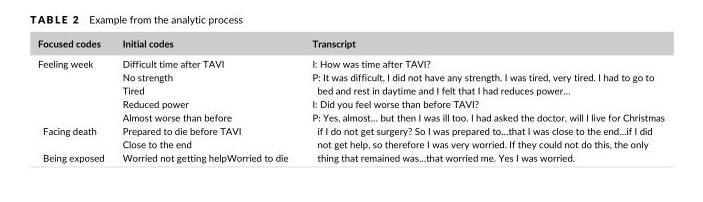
<table><thead><tr><td>Focused codes</td><td>Initial codes</td><td>Transcript</td></tr></thead><tbody><tr><td>Feeling week Facing death Being exposed</td><td>Difficult time after TAVI No strength Tired Reduced power Almost worse than before Prepared to die before TAVI Close to the end Worried not getting helpWorried to die</td><td>I: How was time after TAVI? P: It was difficult, I did not have any strength. I was tired, very tired. I had to go to bed and rest in daytime and I felt that I had reduces power… I: Did you feel worse than before TAVI? P: Yes, almost… but then I was ill too. I had asked the doctor, will I live for Christmas if I do not get surgery? So I was prepared to…that I was close to the end…if I did not get help, so therefore I was very worried. If they could not do this, the only thing that remained was…that worried me. Yes I was worried.</td></tr></tbody></table>